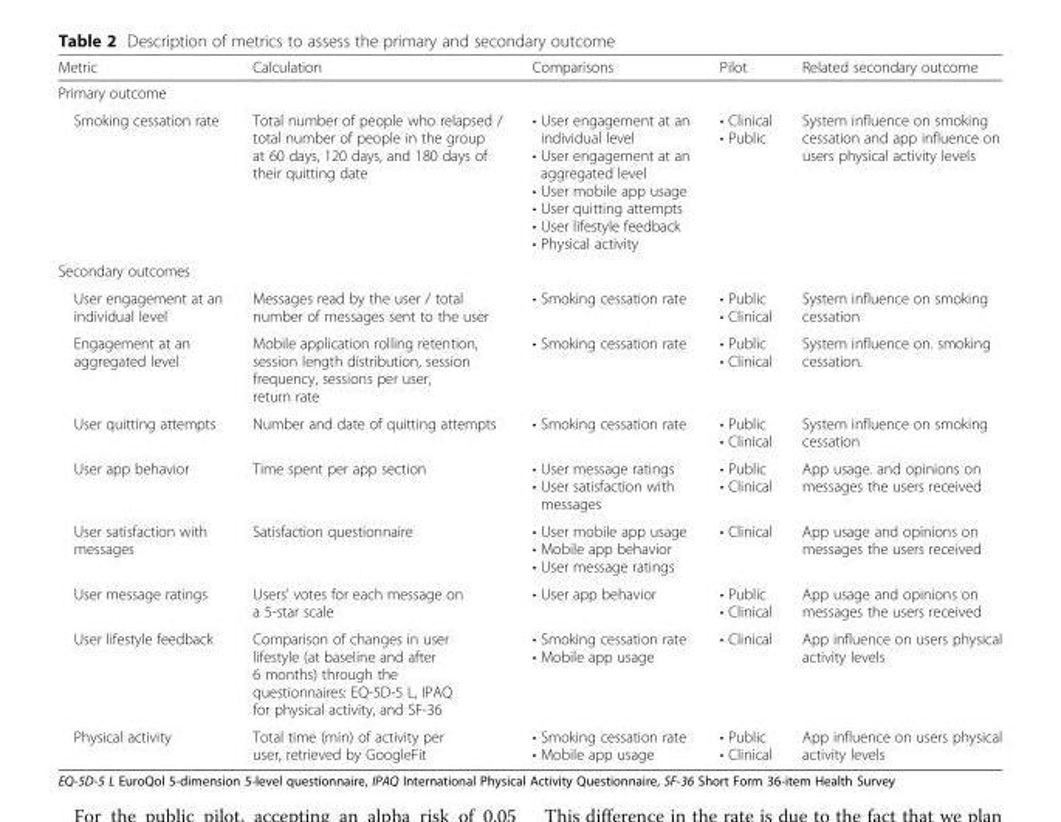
<table><thead><tr><td>Metric</td><td>Calculation</td><td>Comparisons</td><td>Pilot</td><td>Related secondary outcome</td></tr></thead><tbody><tr><td colspan="5">Primary outcome</td></tr><tr><td>Smoking cessation rate</td><td>Total number of people who relapsed / total number of people in the group at 60 days, 120 days, and 180 days of their quitting date</td><td>• User engagement at an individual level • User engagement at an aggregated level • User mobile app usage • User quitting attempts • User lifestyle feedback • Physical activity</td><td>• Clinical • Public</td><td>System influence on smoking cessation and app influence on users physical activity levels</td></tr><tr><td colspan="5">Secondary outcomes</td></tr><tr><td>User engagement at an individual level</td><td>Messages read by the user / total number of messages sent to the user</td><td>• Smoking cessation rate</td><td>• Public • Clinical</td><td>System influence on smoking cessation</td></tr><tr><td>Engagement at an aggregated level</td><td>Mobile application rolling retention, session length distribution, session frequency, sessions per user, return rate</td><td>• Smoking cessation rate</td><td>• Public • Clinical</td><td>System influence on. smoking cessation.</td></tr><tr><td>User quitting attempts</td><td>Number and date of quitting attempts</td><td>• Smoking cessation rate</td><td>• Public • Clinical</td><td>System influence on smoking cessation</td></tr><tr><td>User app behavior</td><td>Time spent per app section</td><td>• User message ratings • User satisfaction with messages</td><td>• Public • Clinical</td><td>App usage. and opinions on messages the users received</td></tr><tr><td>User satisfaction with messages</td><td>Satisfaction questionnaire</td><td>• User mobile app usage • Mobile app behavior • User message ratings</td><td>• Clinical</td><td>App usage and opinions on messages the users received</td></tr><tr><td>User message ratings</td><td>Users’ votes for each message on a 5-star scale</td><td>• User app behavior</td><td>• Public • Clinical</td><td>App usage and opinions on messages the users received</td></tr><tr><td>User lifestyle feedback</td><td>Comparison of changes in user lifestyle (at baseline and after 6 months) through the questionnaires: EQ-5D-5 L, IPAQ for physical activity, and SF-36</td><td>• Smoking cessation rate • Mobile app usage</td><td>• Clinical</td><td>App influence on users physical activity levels</td></tr><tr><td>Physical activity</td><td>Total time (min) of activity per user, retrieved by GoogleFit</td><td>• Smoking cessation rate • Mobile app usage</td><td>• Public • Clinical</td><td>App influence on users physical activity levels</td></tr></tbody></table>